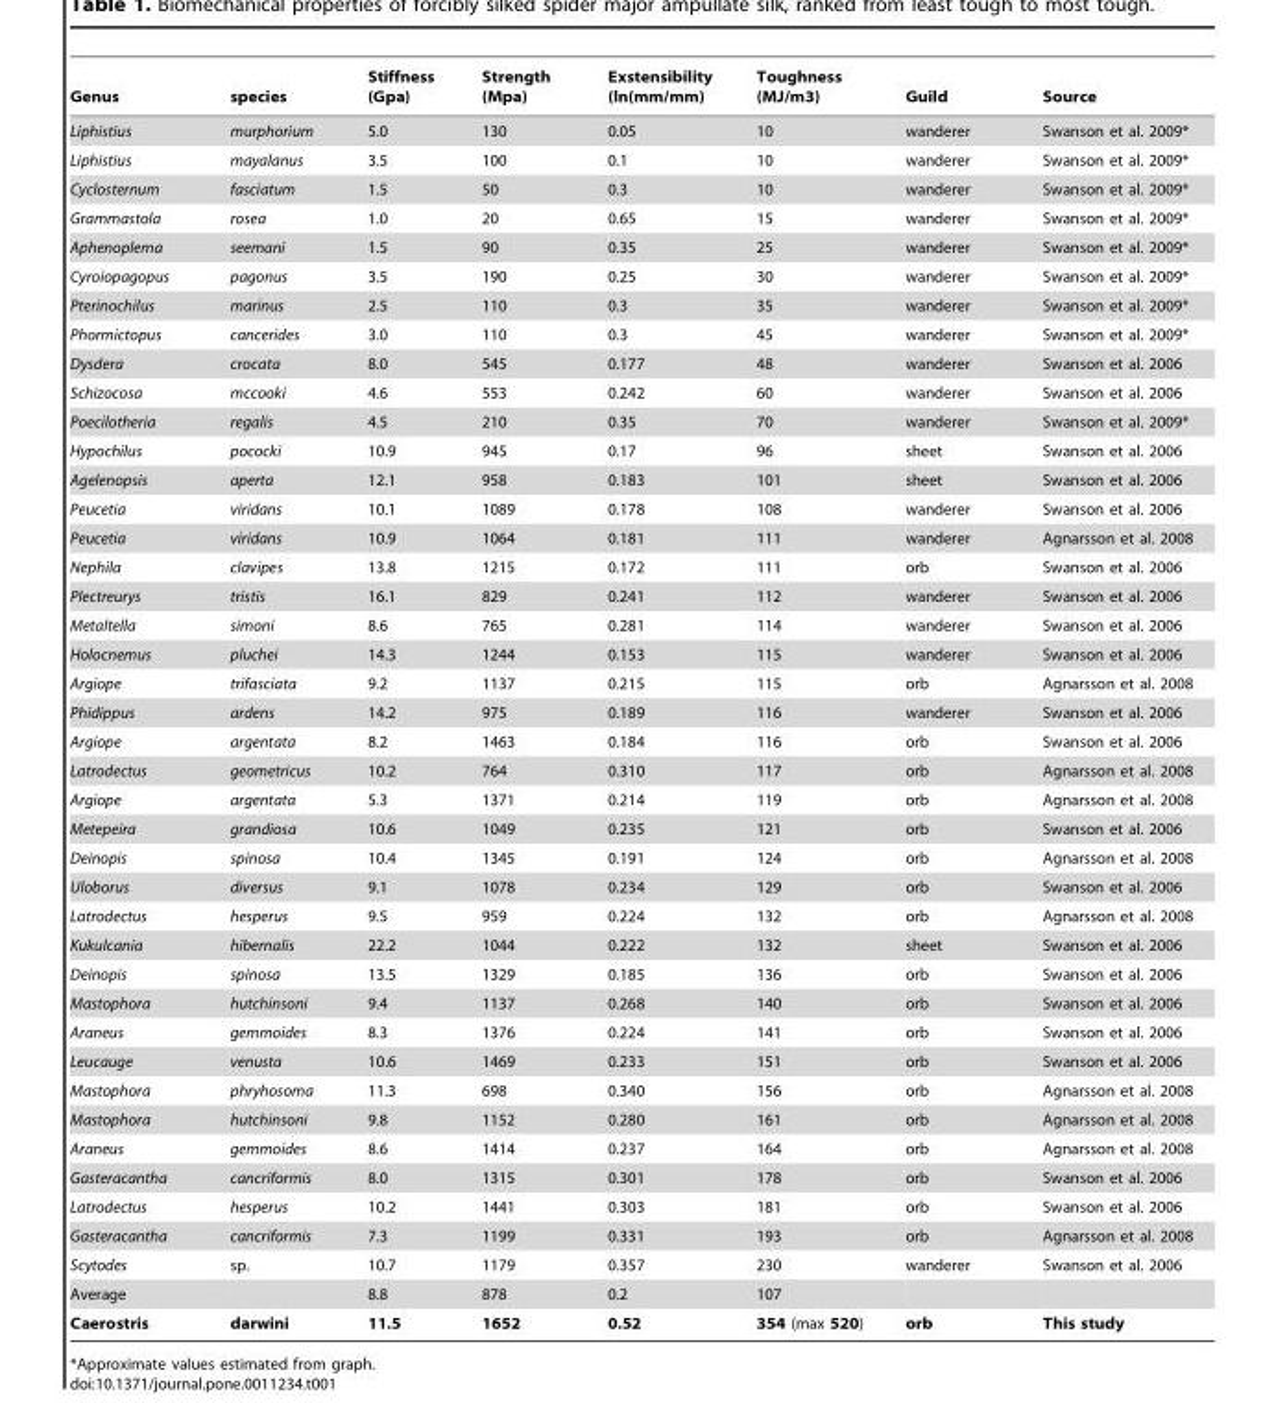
<table><thead><tr><td>Genus</td><td>species</td><td>Stiffness (Gpa)</td><td>Strength (Mpa)</td><td>Exstensibility (ln(mm/mm)</td><td>Toughness (MJ/m3)</td><td>Guild</td><td>Source</td></tr></thead><tbody><tr><td>Liphistius</td><td>murphorium</td><td>5.0</td><td>130</td><td>0.05</td><td>10</td><td>wanderer</td><td>Swanson et al. 2009*</td></tr><tr><td>Liphistius</td><td>mayalanus</td><td>3.5</td><td>100</td><td>0.1</td><td>10</td><td>wanderer</td><td>Swanson et al. 2009*</td></tr><tr><td>Cyclosternum</td><td>fasciatum</td><td>1.5</td><td>50</td><td>0.3</td><td>10</td><td>wanderer</td><td>Swanson et al. 2009*</td></tr><tr><td>Grammastola</td><td>rosea</td><td>1.0</td><td>20</td><td>0.65</td><td>15</td><td>wanderer</td><td>Swanson et al. 2009*</td></tr><tr><td>Aphenoplema</td><td>seemani</td><td>1.5</td><td>90</td><td>0.35</td><td>25</td><td>wanderer</td><td>Swanson et al. 2009*</td></tr><tr><td>Cyroiopagopus</td><td>pagonus</td><td>3.5</td><td>190</td><td>0.25</td><td>30</td><td>wanderer</td><td>Swanson et al. 2009*</td></tr><tr><td>Pterinochilus</td><td>marinus</td><td>2.5</td><td>110</td><td>0.3</td><td>35</td><td>wanderer</td><td>Swanson et al. 2009*</td></tr><tr><td>Phormictopus</td><td>cancerides</td><td>3.0</td><td>110</td><td>0.3</td><td>45</td><td>wanderer</td><td>Swanson et al. 2009*</td></tr><tr><td>Dysdera</td><td>crocata</td><td>8.0</td><td>545</td><td>0.177</td><td>48</td><td>wanderer</td><td>Swanson et al. 2006</td></tr><tr><td>Schizocosa</td><td>mccooki</td><td>4.6</td><td>553</td><td>0.242</td><td>60</td><td>wanderer</td><td>Swanson et al. 2006</td></tr><tr><td>Poecilotheria</td><td>regalis</td><td>4.5</td><td>210</td><td>0.35</td><td>70</td><td>wanderer</td><td>Swanson et al. 2009*</td></tr><tr><td>Hypochilus</td><td>pococki</td><td>10.9</td><td>945</td><td>0.17</td><td>96</td><td>sheet</td><td>Swanson et al. 2006</td></tr><tr><td>Agelenopsis</td><td>aperta</td><td>12.1</td><td>958</td><td>0.183</td><td>101</td><td>sheet</td><td>Swanson et al. 2006</td></tr><tr><td>Peucetia</td><td>viridans</td><td>10.1</td><td>1089</td><td>0.178</td><td>108</td><td>wanderer</td><td>Swanson et al. 2006</td></tr><tr><td>Peucetia</td><td>viridans</td><td>10.9</td><td>1064</td><td>0.181</td><td>111</td><td>wanderer</td><td>Agnarsson et al. 2008</td></tr><tr><td>Nephila</td><td>clavipes</td><td>13.8</td><td>1215</td><td>0.172</td><td>111</td><td>orb</td><td>Swanson et al. 2006</td></tr><tr><td>Plectreurys</td><td>tristis</td><td>16.1</td><td>829</td><td>0.241</td><td>112</td><td>wanderer</td><td>Swanson et al. 2006</td></tr><tr><td>Metaltella</td><td>simoni</td><td>8.6</td><td>765</td><td>0.281</td><td>114</td><td>wanderer</td><td>Swanson et al. 2006</td></tr><tr><td>Holocnemus</td><td>pluchei</td><td>14.3</td><td>1244</td><td>0.153</td><td>115</td><td>wanderer</td><td>Swanson et al. 2006</td></tr><tr><td>Argiope</td><td>trifasciata</td><td>9.2</td><td>1137</td><td>0.215</td><td>115</td><td>orb</td><td>Agnarsson et al. 2008</td></tr><tr><td>Phidippus</td><td>ardens</td><td>14.2</td><td>975</td><td>0.189</td><td>116</td><td>wanderer</td><td>Swanson et al. 2006</td></tr><tr><td>Argiope</td><td>argentata</td><td>8.2</td><td>1463</td><td>0.184</td><td>116</td><td>orb</td><td>Swanson et al. 2006</td></tr><tr><td>Latrodectus</td><td>geometricus</td><td>10.2</td><td>764</td><td>0.310</td><td>117</td><td>orb</td><td>Agnarsson et al. 2008</td></tr><tr><td>Argiope</td><td>argentata</td><td>5.3</td><td>1371</td><td>0.214</td><td>119</td><td>orb</td><td>Agnarsson et al. 2008</td></tr><tr><td>Metepeira</td><td>grandiosa</td><td>10.6</td><td>1049</td><td>0.235</td><td>121</td><td>orb</td><td>Swanson et al. 2006</td></tr><tr><td>Deinopis</td><td>spinosa</td><td>10.4</td><td>1345</td><td>0.191</td><td>124</td><td>orb</td><td>Agnarsson et al. 2008</td></tr><tr><td>Uloborus</td><td>diversus</td><td>9.1</td><td>1078</td><td>0.234</td><td>129</td><td>orb</td><td>Swanson et al. 2006</td></tr><tr><td>Latrodectus</td><td>hesperus</td><td>9.5</td><td>959</td><td>0.224</td><td>132</td><td>orb</td><td>Agnarsson et al. 2008</td></tr><tr><td>Kukulcania</td><td>hibernalis</td><td>22.2</td><td>1044</td><td>0.222</td><td>132</td><td>sheet</td><td>Swanson et al. 2006</td></tr><tr><td>Deinopis</td><td>spinosa</td><td>13.5</td><td>1329</td><td>0.185</td><td>136</td><td>orb</td><td>Swanson et al. 2006</td></tr><tr><td>Mastophora</td><td>hutchinsoni</td><td>9.4</td><td>1137</td><td>0.268</td><td>140</td><td>orb</td><td>Swanson et al. 2006</td></tr><tr><td>Araneus</td><td>gemmoides</td><td>8.3</td><td>1376</td><td>0.224</td><td>141</td><td>orb</td><td>Swanson et al. 2006</td></tr><tr><td>Leucauge</td><td>venusta</td><td>10.6</td><td>1469</td><td>0.233</td><td>151</td><td>orb</td><td>Swanson et al. 2006</td></tr><tr><td>Mastophora</td><td>phryhosoma</td><td>11.3</td><td>698</td><td>0.340</td><td>156</td><td>orb</td><td>Agnarsson et al. 2008</td></tr><tr><td>Mastophora</td><td>hutchinsoni</td><td>9.8</td><td>1152</td><td>0.280</td><td>161</td><td>orb</td><td>Agnarsson et al. 2008</td></tr><tr><td>Araneus</td><td>gemmoides</td><td>8.6</td><td>1414</td><td>0.237</td><td>164</td><td>orb</td><td>Agnarsson et al. 2008</td></tr><tr><td>Gasteracantha</td><td>cancriformis</td><td>8.0</td><td>1315</td><td>0.301</td><td>178</td><td>orb</td><td>Swanson et al. 2006</td></tr><tr><td>Latrodectus</td><td>hesperus</td><td>10.2</td><td>1441</td><td>0.303</td><td>181</td><td>orb</td><td>Swanson et al. 2006</td></tr><tr><td>Gasteracantha</td><td>cancriformis</td><td>7.3</td><td>1199</td><td>0.331</td><td>193</td><td>orb</td><td>Agnarsson et al. 2008</td></tr><tr><td>Scytodes</td><td>sp.</td><td>10.7</td><td>1179</td><td>0.357</td><td>230</td><td>wanderer</td><td>Swanson et al. 2006</td></tr><tr><td>Average</td><td></td><td>8.8</td><td>878</td><td>0.2</td><td>107</td><td></td><td></td></tr><tr><td>Caerostris</td><td>darwini</td><td>11.5</td><td>1652</td><td>0.52</td><td>354 (max 520)</td><td>orb</td><td>This study</td></tr></tbody></table>